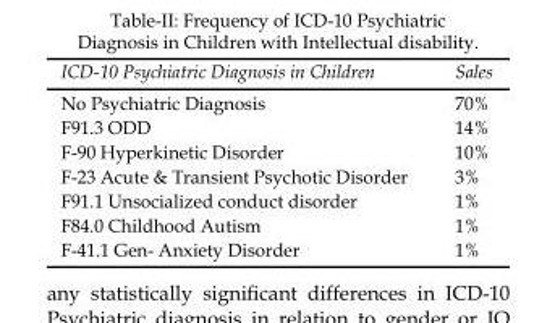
<table><thead><tr><td>ICD-10 Psychiatric Diagnosis in Children</td><td>Sales</td></tr></thead><tbody><tr><td>No Psychiatric Diagnosis</td><td>70%</td></tr><tr><td>F91.3 ODD</td><td>14%</td></tr><tr><td>F-90 Hyperkinetic Disorder</td><td>10%</td></tr><tr><td>F-23 Acute &amp; Transient Psychotic Disorder</td><td>3%</td></tr><tr><td>F91.1 Unsocialized conduct disorder</td><td>1%</td></tr><tr><td>F84.0 Childhood Autism</td><td>1%</td></tr><tr><td>F-41.1 Gen- Anxiety Disorder</td><td>1%</td></tr></tbody></table>